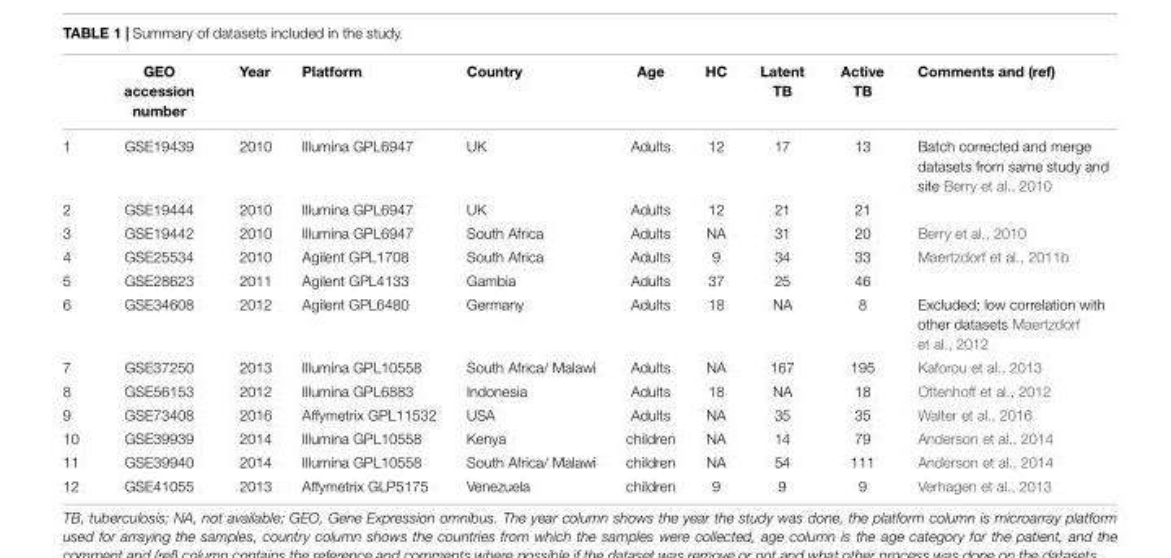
<table><thead><tr><td></td><td>GEO accession number</td><td>Year</td><td>Platform</td><td>Country</td><td>Age</td><td>HC</td><td>Latent TB</td><td>Active TB</td><td>Comments and (ref)</td></tr></thead><tbody><tr><td>1</td><td>GSE19439</td><td>2010</td><td>Illumina GPL6947</td><td>UK</td><td>Adults</td><td>12</td><td>17</td><td>13</td><td>Batch corrected and merge datasets from same study and site Berry et al., 2010</td></tr><tr><td>2</td><td>GSE19444</td><td>2010</td><td>Illumina GPL6947</td><td>UK</td><td>Adults</td><td>12</td><td>21</td><td>21</td><td></td></tr><tr><td>3</td><td>GSE19442</td><td>2010</td><td>Illumina GPL6947</td><td>South Africa</td><td>Adults</td><td>NA</td><td>31</td><td>20</td><td>Berry et al., 2010</td></tr><tr><td>4</td><td>GSE25534</td><td>2010</td><td>Agilent GPL1708</td><td>South Africa</td><td>Adults</td><td>9</td><td>34</td><td>33</td><td>Maertzdorf et al., 2011b</td></tr><tr><td>5</td><td>GSE28623</td><td>2011</td><td>Agilent GPL4133</td><td>Gambia</td><td>Adults</td><td>37</td><td>25</td><td>46</td><td></td></tr><tr><td>6</td><td>GSE34608</td><td>2012</td><td>Agilent GPL6480</td><td>Germany</td><td>Adults</td><td>18</td><td>NA</td><td>8</td><td>Excluded; low correlation with other datasets Maertzdorf et al., 2012</td></tr><tr><td>7</td><td>GSE37250</td><td>2013</td><td>Illumina GPL10558</td><td>South Africa/ Malawi</td><td>Adults</td><td>NA</td><td>167</td><td>195</td><td>Kaforou et al., 2013</td></tr><tr><td>8</td><td>GSE56153</td><td>2012</td><td>Illumina GPL6883</td><td>Indonesia</td><td>Adults</td><td>18</td><td>NA</td><td>18</td><td>Ottenhoff et al., 2012</td></tr><tr><td>9</td><td>GSE73408</td><td>2016</td><td>Affymetrix GPL11532</td><td>USA</td><td>Adults</td><td>NA</td><td>35</td><td>35</td><td>Walter et al., 2016</td></tr><tr><td>10</td><td>GSE39939</td><td>2014</td><td>Illumina GPL10558</td><td>Kenya</td><td>children</td><td>NA</td><td>14</td><td>79</td><td>Anderson et al., 2014</td></tr><tr><td>11</td><td>GSE39940</td><td>2014</td><td>Illumina GPL10558</td><td>South Africa/ Malawi</td><td>children</td><td>NA</td><td>54</td><td>111</td><td>Anderson et al., 2014</td></tr><tr><td>12</td><td>GSE41055</td><td>2013</td><td>Affymetrix GLP5175</td><td>Venezuela</td><td>children</td><td>9</td><td>9</td><td>9</td><td>Verhagen et al., 2013</td></tr></tbody></table>